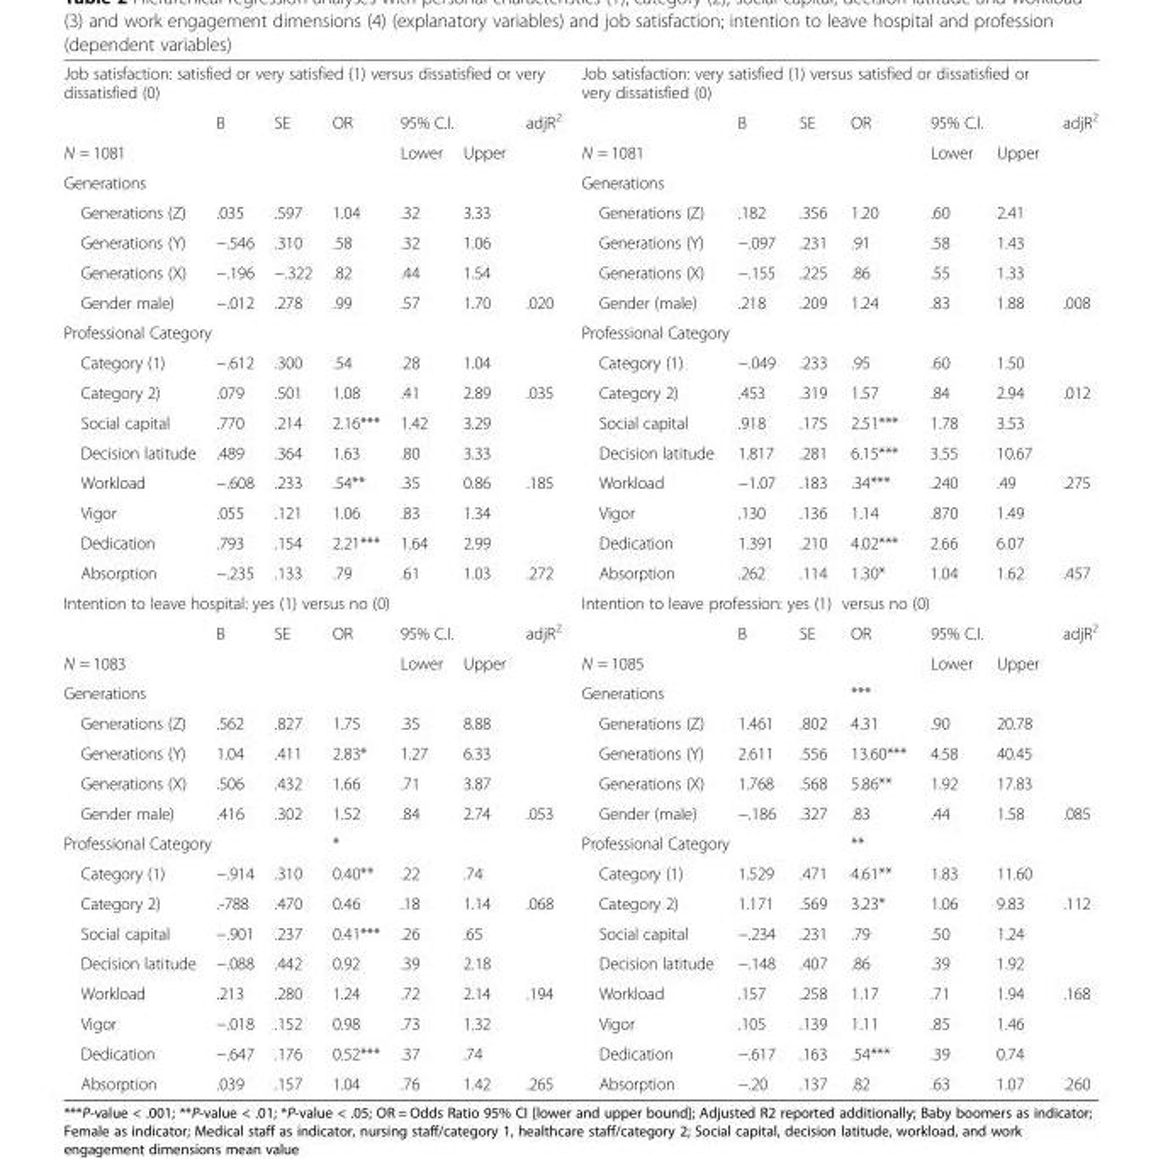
<table><tbody><tr><td colspan="7">Job satisfaction: satisfied or very satisfied (1) versus dissatisfied or very dissatisfied (0)</td><td colspan="6">Job satisfaction: very satisfied (1) versus satisfied or dissatisfied or very dissatisfied (0)</td><td></td></tr><tr><td></td><td>B</td><td>SE</td><td>OR</td><td colspan="2">95% C.I.</td><td>adjR<sup>2</sup></td><td></td><td>B</td><td>SE</td><td>OR</td><td colspan="2">95% C.I.</td><td>adjR<sup>2</sup></td></tr><tr><td>N = 1081</td><td></td><td></td><td></td><td>Lower</td><td>Upper</td><td></td><td>N = 1081</td><td></td><td></td><td></td><td>Lower</td><td>Upper</td><td></td></tr><tr><td>Generations</td><td></td><td></td><td></td><td></td><td></td><td></td><td>Generations</td><td></td><td></td><td></td><td></td><td></td><td></td></tr><tr><td>Generations (Z)</td><td>.035</td><td>.597</td><td>1.04</td><td>.32</td><td>3.33</td><td></td><td>Generations (Z)</td><td>.182</td><td>.356</td><td>1.20</td><td>.60</td><td>2.41</td><td></td></tr><tr><td>Generations (Y)</td><td>−.546</td><td>.310</td><td>.58</td><td>.32</td><td>1.06</td><td></td><td>Generations (Y)</td><td>−.097</td><td>.231</td><td>.91</td><td>.58</td><td>1.43</td><td></td></tr><tr><td>Generations (X)</td><td>−.196</td><td>−.322</td><td>.82</td><td>.44</td><td>1.54</td><td></td><td>Generations (X)</td><td>−.155</td><td>.225</td><td>.86</td><td>.55</td><td>1.33</td><td></td></tr><tr><td>Gender male)</td><td>−.012</td><td>.278</td><td>.99</td><td>.57</td><td>1.70</td><td>.020</td><td>Gender (male)</td><td>.218</td><td>.209</td><td>1.24</td><td>.83</td><td>1.88</td><td>.008</td></tr><tr><td colspan="3">Professional Category</td><td></td><td></td><td></td><td></td><td colspan="2">Professional Category</td><td></td><td></td><td></td><td></td><td></td></tr><tr><td>Category (1)</td><td>−.612</td><td>.300</td><td>.54</td><td>.28</td><td>1.04</td><td></td><td>Category (1)</td><td>−.049</td><td>.233</td><td>.95</td><td>.60</td><td>1.50</td><td></td></tr><tr><td>Category 2)</td><td>.079</td><td>.501</td><td>1.08</td><td>.41</td><td>2.89</td><td>.035</td><td>Category 2)</td><td>.453</td><td>.319</td><td>1.57</td><td>.84</td><td>2.94</td><td>.012</td></tr><tr><td>Social capital</td><td>.770</td><td>.214</td><td>2.16***</td><td>1.42</td><td>3.29</td><td></td><td>Social capital</td><td>.918</td><td>.175</td><td>2.51***</td><td>1.78</td><td>3.53</td><td></td></tr><tr><td>Decision latitude</td><td>.489</td><td>.364</td><td>1.63</td><td>.80</td><td>3.33</td><td></td><td>Decision latitude</td><td>1.817</td><td>.281</td><td>6.15***</td><td>3.55</td><td>10.67</td><td></td></tr><tr><td>Workload</td><td>−.608</td><td>.233</td><td>.54**</td><td>.35</td><td>0.86</td><td>.185</td><td>Workload</td><td>−1.07</td><td>.183</td><td>.34***</td><td>.240</td><td>.49</td><td>.275</td></tr><tr><td>Vigor</td><td>.055</td><td>.121</td><td>1.06</td><td>.83</td><td>1.34</td><td></td><td>Vigor</td><td>.130</td><td>.136</td><td>1.14</td><td>.870</td><td>1.49</td><td></td></tr><tr><td>Dedication</td><td>.793</td><td>.154</td><td>2.21***</td><td>1.64</td><td>2.99</td><td></td><td>Dedication</td><td>1.391</td><td>.210</td><td>4.02***</td><td>2.66</td><td>6.07</td><td></td></tr><tr><td>Absorption</td><td>−.235</td><td>.133</td><td>.79</td><td>.61</td><td>1.03</td><td>.272</td><td>Absorption</td><td>.262</td><td>.114</td><td>1.30*</td><td>1.04</td><td>1.62</td><td>.457</td></tr><tr><td colspan="7">Intention to leave hospital: yes (1) versus no (0)</td><td colspan="6">Intention to leave profession: yes (1) versus no (0)</td><td></td></tr><tr><td></td><td>B</td><td>SE</td><td>OR</td><td colspan="2">95% C.I.</td><td>adjR<sup>2</sup></td><td></td><td>B</td><td>SE</td><td>OR</td><td colspan="2">95% C.I.</td><td>adjR<sup>2</sup></td></tr><tr><td>N = 1083</td><td></td><td></td><td></td><td>Lower</td><td>Upper</td><td></td><td>N = 1085</td><td></td><td></td><td></td><td>Lower</td><td>Upper</td><td></td></tr><tr><td>Generations</td><td></td><td></td><td></td><td></td><td></td><td></td><td>Generations</td><td></td><td></td><td>***</td><td></td><td></td><td></td></tr><tr><td>Generations (Z)</td><td>.562</td><td>.827</td><td>1.75</td><td>.35</td><td>8.88</td><td></td><td>Generations (Z)</td><td>1.461</td><td>.802</td><td>4.31</td><td>.90</td><td>20.78</td><td></td></tr><tr><td>Generations (Y)</td><td>1.04</td><td>.411</td><td>2.83*</td><td>1.27</td><td>6.33</td><td></td><td>Generations (Y)</td><td>2.611</td><td>.556</td><td>13.60***</td><td>4.58</td><td>40.45</td><td></td></tr><tr><td>Generations (X)</td><td>.506</td><td>.432</td><td>1.66</td><td>.71</td><td>3.87</td><td></td><td>Generations (X)</td><td>1.768</td><td>.568</td><td>5.86**</td><td>1.92</td><td>17.83</td><td></td></tr><tr><td>Gender male)</td><td>.416</td><td>.302</td><td>1.52</td><td>.84</td><td>2.74</td><td>.053</td><td>Gender (male)</td><td>−.186</td><td>.327</td><td>.83</td><td>.44</td><td>1.58</td><td>.085</td></tr><tr><td colspan="2">Professional Category</td><td></td><td>*</td><td></td><td></td><td></td><td colspan="2">Professional Category</td><td></td><td>**</td><td></td><td></td><td></td></tr><tr><td>Category (1)</td><td>−.914</td><td>.310</td><td>0.40**</td><td>.22</td><td>.74</td><td></td><td>Category (1)</td><td>1.529</td><td>.471</td><td>4.61**</td><td>1.83</td><td>11.60</td><td></td></tr><tr><td>Category 2)</td><td>.-788</td><td>.470</td><td>0.46</td><td>.18</td><td>1.14</td><td>.068</td><td>Category 2)</td><td>1.171</td><td>.569</td><td>3.23*</td><td>1.06</td><td>9.83</td><td>.112</td></tr><tr><td>Social capital</td><td>−.901</td><td>.237</td><td>0.41***</td><td>.26</td><td>.65</td><td></td><td>Social capital</td><td>−.234</td><td>.231</td><td>.79</td><td>.50</td><td>1.24</td><td></td></tr><tr><td>Decision latitude</td><td>−.088</td><td>.442</td><td>0.92</td><td>.39</td><td>2.18</td><td></td><td>Decision latitude</td><td>−.148</td><td>.407</td><td>.86</td><td>.39</td><td>1.92</td><td></td></tr><tr><td>Workload</td><td>.213</td><td>.280</td><td>1.24</td><td>.72</td><td>2.14</td><td>.194</td><td>Workload</td><td>.157</td><td>.258</td><td>1.17</td><td>.71</td><td>1.94</td><td>.168</td></tr><tr><td>Vigor</td><td>−.018</td><td>.152</td><td>0.98</td><td>.73</td><td>1.32</td><td></td><td>Vigor</td><td>.105</td><td>.139</td><td>1.11</td><td>.85</td><td>1.46</td><td></td></tr><tr><td>Dedication</td><td>−.647</td><td>.176</td><td>0.52***</td><td>.37</td><td>.74</td><td></td><td>Dedication</td><td>−.617</td><td>.163</td><td>.54***</td><td>.39</td><td>0.74</td><td></td></tr><tr><td>Absorption</td><td>.039</td><td>.157</td><td>1.04</td><td>.76</td><td>1.42</td><td>.265</td><td>Absorption</td><td>−.20</td><td>.137</td><td>.82</td><td>.63</td><td>1.07</td><td>.260</td></tr></tbody></table>